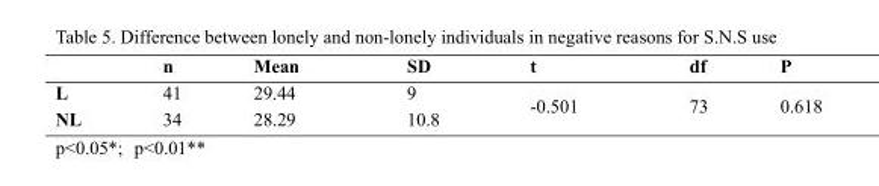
<table><thead><tr><td></td><td>n</td><td>Mean</td><td>SD</td><td>t</td><td>df</td><td>P</td></tr></thead><tbody><tr><td>L</td><td>41</td><td>29.44</td><td>9</td><td rowspan="2">-0.501</td><td rowspan="2">73</td><td rowspan="2">0.618</td></tr><tr><td>NL</td><td>34</td><td>28.29</td><td>10.8</td></tr></tbody></table>